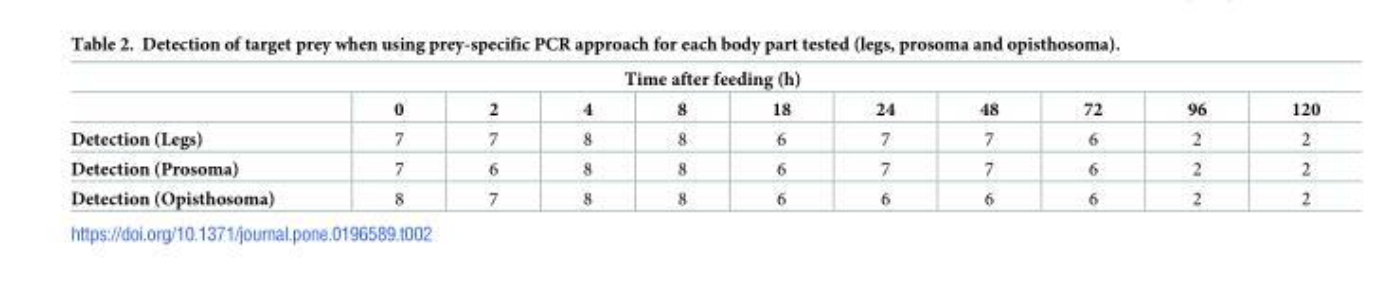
<table><thead><tr><td colspan="11">Time after feeding (h)</td></tr><tr><td></td><td>0</td><td>2</td><td>4</td><td>8</td><td>18</td><td>24</td><td>48</td><td>72</td><td>96</td><td>120</td></tr></thead><tbody><tr><td>Detection (Legs)</td><td>7</td><td>7</td><td>8</td><td>8</td><td>6</td><td>7</td><td>7</td><td>6</td><td>2</td><td>2</td></tr><tr><td>Detection (Prosoma)</td><td>7</td><td>6</td><td>8</td><td>8</td><td>6</td><td>7</td><td>7</td><td>6</td><td>2</td><td>2</td></tr><tr><td>Detection (Opisthosoma)</td><td>8</td><td>7</td><td>8</td><td>8</td><td>6</td><td>6</td><td>6</td><td>6</td><td>2</td><td>2</td></tr></tbody></table>